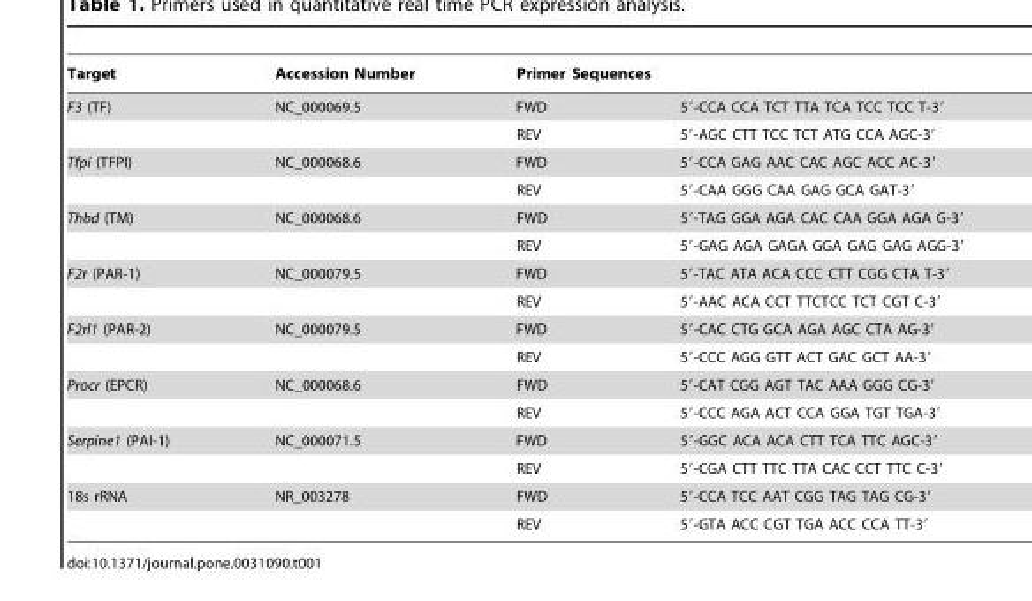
<table><thead><tr><td rowspan="2">Target F3 (TF)</td><td rowspan="2">Accession Number NC_000069.5</td><td colspan="2">Primer Sequences</td></tr><tr><td>FWD</td><td>5′-CCA CCA TCT TTA TCA TCC TCC T-3′</td></tr></thead><tbody><tr><td></td><td></td><td>REV</td><td>5′-AGC CTT TCC TCT ATG CCA AGC-3′</td></tr><tr><td rowspan="2">Tfpi (TFPI)</td><td>NC_000068.6</td><td>FWD</td><td>5′-CCA GAG AAC CAC AGC ACC AC-3′</td></tr><tr><td></td><td>REV</td><td>5′-CAA GGG CAA GAG GCA GAT-3′</td></tr><tr><td rowspan="2">Thbd (TM)</td><td>NC_000068.6</td><td>FWD</td><td>5′-TAG GGA AGA CAC CAA GGA AGA G-3′</td></tr><tr><td></td><td>REV</td><td>5′-GAG AGA GAGA GGA GAG GAG AGG-3′</td></tr><tr><td rowspan="2">F2r (PAR-1)</td><td>NC_000079.5</td><td>FWD</td><td>5′-TAC ATA ACA CCC CTT CGG CTA T-3′</td></tr><tr><td></td><td>REV</td><td>5′-AAC ACA CCT TTCTCC TCT CGT C-3′</td></tr><tr><td rowspan="2">F2rl1 (PAR-2)</td><td>NC_000079.5</td><td>FWD</td><td>5′-CAC CTG GCA AGA AGC CTA AG-3′</td></tr><tr><td></td><td>REV</td><td>5′-CCC AGG GTT ACT GAC GCT AA-3′</td></tr><tr><td rowspan="2">Procr (EPCR)</td><td>NC_000068.6</td><td>FWD</td><td>5′-CAT CGG AGT TAC AAA GGG CG-3′</td></tr><tr><td></td><td>REV</td><td>5′-CCC AGA ACT CCA GGA TGT TGA-3′</td></tr><tr><td rowspan="2">Serpine1 (PAI-1)</td><td>NC_000071.5</td><td>FWD</td><td>5′-GGC ACA ACA CTT TCA TTC AGC-3′</td></tr><tr><td></td><td>REV</td><td>5′-CGA CTT TTC TTA CAC CCT TTC C-3′</td></tr><tr><td rowspan="2">18s rRNA</td><td>NR_003278</td><td>FWD</td><td>5′-CCA TCC AAT CGG TAG TAG CG-3′</td></tr><tr><td></td><td>REV</td><td>5′-GTA ACC CGT TGA ACC CCA TT-3′</td></tr></tbody></table>